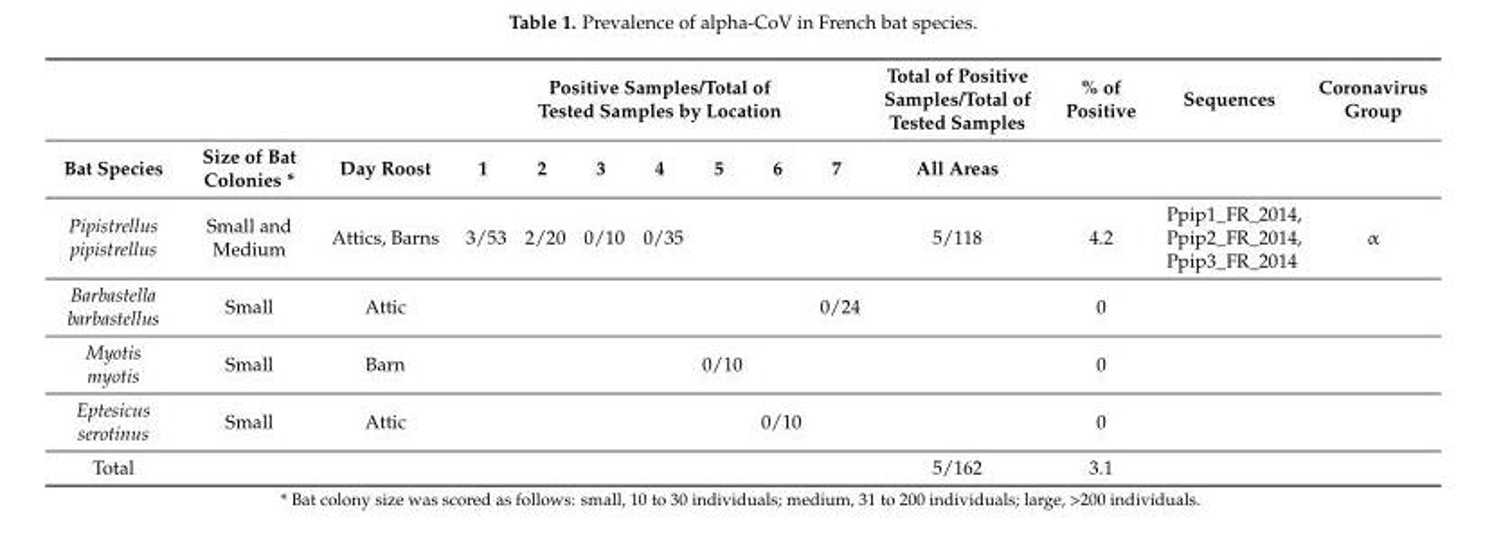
<table><thead><tr><td rowspan="2">Bat Species</td><td rowspan="2">Size of Bat Colonies *</td><td rowspan="2">Day Roost</td><td colspan="7">Positive Samples/Total of Tested Samples by Location</td><td rowspan="2">Total of Positive Samples/Total of Tested Samples All Areas</td><td rowspan="2">% of Positive</td><td rowspan="2">Sequences</td><td rowspan="2">Coronavirus Group</td></tr><tr><td>1</td><td>2</td><td>3</td><td>4</td><td>5</td><td>6</td><td>7</td></tr></thead><tbody><tr><td>Pipistrellus pipistrellus</td><td>Small and Medium</td><td>Attics, Barns</td><td>3/53</td><td>2/20</td><td>0/10</td><td>0/35</td><td></td><td></td><td></td><td>5/118</td><td>4.2</td><td>Ppip1_FR_2014, Ppip2_FR_2014, Ppip3_FR_2014</td><td>α</td></tr><tr><td>Barbastella barbastellus</td><td>Small</td><td>Attic</td><td></td><td></td><td></td><td></td><td></td><td></td><td>0/24</td><td></td><td>0</td><td></td><td></td></tr><tr><td>Myotis myotis</td><td>Small</td><td>Barn</td><td></td><td></td><td></td><td></td><td>0/10</td><td></td><td></td><td></td><td>0</td><td></td><td></td></tr><tr><td>Eptesicus serotinus</td><td>Small</td><td>Attic</td><td></td><td></td><td></td><td></td><td></td><td>0/10</td><td></td><td></td><td>0</td><td></td><td></td></tr><tr><td>Total</td><td></td><td></td><td></td><td></td><td></td><td></td><td></td><td></td><td></td><td>5/162</td><td>3.1</td><td></td><td></td></tr></tbody></table>